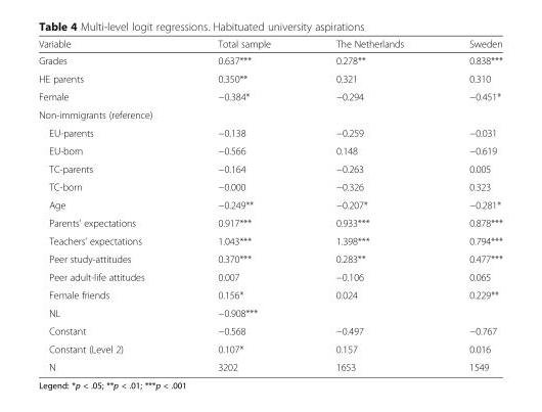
<table><thead><tr><td>Variable</td><td>Total sample</td><td>The Netherlands</td><td>Sweden</td></tr></thead><tbody><tr><td>Grades</td><td>0.637***</td><td>0.278**</td><td>0.838***</td></tr><tr><td>HE parents</td><td>0.350**</td><td>0.321</td><td>0.310</td></tr><tr><td>Female</td><td>−0.384*</td><td>−0.294</td><td>−0.451*</td></tr><tr><td colspan="4">Non-immigrants (reference)</td></tr><tr><td>EU-parents</td><td>−0.138</td><td>−0.259</td><td>−0.031</td></tr><tr><td>EU-born</td><td>−0.566</td><td>0.148</td><td>−0.619</td></tr><tr><td>TC-parents</td><td>−0.164</td><td>−0.263</td><td>0.005</td></tr><tr><td>TC-born</td><td>−0.000</td><td>−0.326</td><td>0.323</td></tr><tr><td>Age</td><td>−0.249**</td><td>−0.207*</td><td>−0.281*</td></tr><tr><td>Parents’ expectations</td><td>0.917***</td><td>0.933***</td><td>0.878***</td></tr><tr><td>Teachers’ expectations</td><td>1.043***</td><td>1.398***</td><td>0.794***</td></tr><tr><td>Peer study-attitudes</td><td>0.370***</td><td>0.283**</td><td>0.477***</td></tr><tr><td>Peer adult-life attitudes</td><td>0.007</td><td>−0.106</td><td>0.065</td></tr><tr><td>Female friends</td><td>0.156*</td><td>0.024</td><td>0.229**</td></tr><tr><td>NL</td><td>−0.908***</td><td></td><td></td></tr><tr><td>Constant</td><td>−0.568</td><td>−0.497</td><td>−0.767</td></tr><tr><td>Constant (Level 2)</td><td>0.107*</td><td>0.157</td><td>0.016</td></tr><tr><td>N</td><td>3202</td><td>1653</td><td>1549</td></tr></tbody></table>